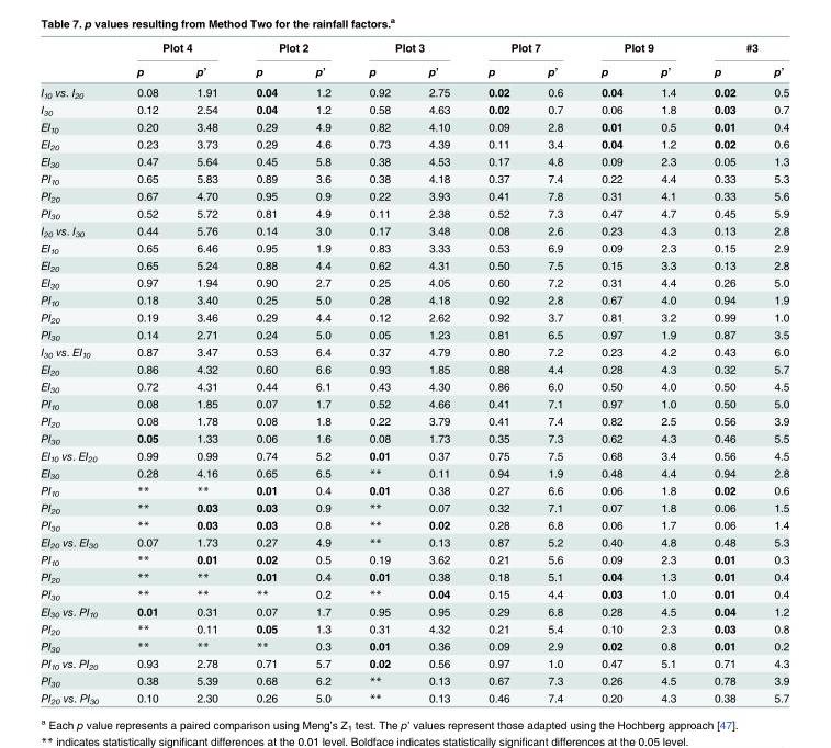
<table><thead><tr><td rowspan="2"></td><td colspan="2">Plot 4</td><td colspan="2">Plot 2</td><td colspan="2">Plot 3</td><td colspan="2">Plot 7</td><td colspan="2">Plot 9</td><td colspan="2">#3</td></tr><tr><td>p</td><td>p’</td><td>p</td><td>p’</td><td>p</td><td>p’</td><td>p</td><td>p’</td><td>p</td><td>p’</td><td>p</td><td>p’</td></tr></thead><tbody><tr><td>I<sub>10</sub> vs. I<sub>20</sub></td><td>0.08</td><td>1.91</td><td>0.04</td><td>1.2</td><td>0.92</td><td>2.75</td><td>0.02</td><td>0.6</td><td>0.04</td><td>1.4</td><td>0.02</td><td>0.5</td></tr><tr><td>I<sub>30</sub></td><td>0.12</td><td>2.54</td><td>0.04</td><td>1.2</td><td>0.58</td><td>4.63</td><td>0.02</td><td>0.7</td><td>0.06</td><td>1.8</td><td>0.03</td><td>0.7</td></tr><tr><td>EI<sub>10</sub></td><td>0.20</td><td>3.48</td><td>0.29</td><td>4.9</td><td>0.82</td><td>4.10</td><td>0.09</td><td>2.8</td><td>0.01</td><td>0.5</td><td>0.01</td><td>0.4</td></tr><tr><td>EI<sub>20</sub></td><td>0.23</td><td>3.73</td><td>0.29</td><td>4.6</td><td>0.73</td><td>4.39</td><td>0.11</td><td>3.4</td><td>0.04</td><td>1.2</td><td>0.02</td><td>0.6</td></tr><tr><td>EI<sub>30</sub></td><td>0.47</td><td>5.64</td><td>0.45</td><td>5.8</td><td>0.38</td><td>4.53</td><td>0.17</td><td>4.8</td><td>0.09</td><td>2.3</td><td>0.05</td><td>1.3</td></tr><tr><td>PI<sub>10</sub></td><td>0.65</td><td>5.83</td><td>0.89</td><td>3.6</td><td>0.38</td><td>4.18</td><td>0.37</td><td>7.4</td><td>0.22</td><td>4.4</td><td>0.33</td><td>5.3</td></tr><tr><td>PI<sub>20</sub></td><td>0.67</td><td>4.70</td><td>0.95</td><td>0.9</td><td>0.22</td><td>3.93</td><td>0.41</td><td>7.8</td><td>0.31</td><td>4.1</td><td>0.33</td><td>5.6</td></tr><tr><td>PI<sub>30</sub></td><td>0.52</td><td>5.72</td><td>0.81</td><td>4.9</td><td>0.11</td><td>2.38</td><td>0.52</td><td>7.3</td><td>0.47</td><td>4.7</td><td>0.45</td><td>5.9</td></tr><tr><td>I<sub>20</sub> vs. I<sub>30</sub></td><td>0.44</td><td>5.76</td><td>0.14</td><td>3.0</td><td>0.17</td><td>3.48</td><td>0.08</td><td>2.6</td><td>0.23</td><td>4.3</td><td>0.13</td><td>2.8</td></tr><tr><td>EI<sub>10</sub></td><td>0.65</td><td>6.46</td><td>0.95</td><td>1.9</td><td>0.83</td><td>3.33</td><td>0.53</td><td>6.9</td><td>0.09</td><td>2.3</td><td>0.15</td><td>2.9</td></tr><tr><td>EI<sub>20</sub></td><td>0.65</td><td>5.24</td><td>0.88</td><td>4.4</td><td>0.62</td><td>4.31</td><td>0.50</td><td>7.5</td><td>0.15</td><td>3.3</td><td>0.13</td><td>2.8</td></tr><tr><td>EI<sub>30</sub></td><td>0.97</td><td>1.94</td><td>0.90</td><td>2.7</td><td>0.25</td><td>4.05</td><td>0.60</td><td>7.2</td><td>0.31</td><td>4.4</td><td>0.26</td><td>5.0</td></tr><tr><td>PI<sub>10</sub></td><td>0.18</td><td>3.40</td><td>0.25</td><td>5.0</td><td>0.28</td><td>4.18</td><td>0.92</td><td>2.8</td><td>0.67</td><td>4.0</td><td>0.94</td><td>1.9</td></tr><tr><td>PI<sub>20</sub></td><td>0.19</td><td>3.46</td><td>0.29</td><td>4.4</td><td>0.12</td><td>2.62</td><td>0.92</td><td>3.7</td><td>0.81</td><td>3.2</td><td>0.99</td><td>1.0</td></tr><tr><td>PI<sub>30</sub></td><td>0.14</td><td>2.71</td><td>0.24</td><td>5.0</td><td>0.05</td><td>1.23</td><td>0.81</td><td>6.5</td><td>0.97</td><td>1.9</td><td>0.87</td><td>3.5</td></tr><tr><td>I<sub>30</sub> vs. EI<sub>10</sub></td><td>0.87</td><td>3.47</td><td>0.53</td><td>6.4</td><td>0.37</td><td>4.79</td><td>0.80</td><td>7.2</td><td>0.23</td><td>4.2</td><td>0.43</td><td>6.0</td></tr><tr><td>EI<sub>20</sub></td><td>0.86</td><td>4.32</td><td>0.60</td><td>6.6</td><td>0.93</td><td>1.85</td><td>0.88</td><td>4.4</td><td>0.28</td><td>4.3</td><td>0.32</td><td>5.7</td></tr><tr><td>EI<sub>30</sub></td><td>0.72</td><td>4.31</td><td>0.44</td><td>6.1</td><td>0.43</td><td>4.30</td><td>0.86</td><td>6.0</td><td>0.50</td><td>4.0</td><td>0.50</td><td>4.5</td></tr><tr><td>PI<sub>10</sub></td><td>0.08</td><td>1.85</td><td>0.07</td><td>1.7</td><td>0.52</td><td>4.66</td><td>0.41</td><td>7.1</td><td>0.97</td><td>1.0</td><td>0.50</td><td>5.0</td></tr><tr><td>PI<sub>20</sub></td><td>0.08</td><td>1.78</td><td>0.08</td><td>1.8</td><td>0.22</td><td>3.79</td><td>0.41</td><td>7.4</td><td>0.82</td><td>2.5</td><td>0.56</td><td>3.9</td></tr><tr><td>PI<sub>30</sub></td><td>0.05</td><td>1.33</td><td>0.06</td><td>1.6</td><td>0.08</td><td>1.73</td><td>0.35</td><td>7.3</td><td>0.62</td><td>4.3</td><td>0.46</td><td>5.5</td></tr><tr><td>EI<sub>10</sub> vs. EI<sub>20</sub></td><td>0.99</td><td>0.99</td><td>0.74</td><td>5.2</td><td>0.01</td><td>0.37</td><td>0.75</td><td>7.5</td><td>0.68</td><td>3.4</td><td>0.56</td><td>4.5</td></tr><tr><td>EI<sub>30</sub></td><td>0.28</td><td>4.16</td><td>0.65</td><td>6.5</td><td>**</td><td>0.11</td><td>0.94</td><td>1.9</td><td>0.48</td><td>4.4</td><td>0.94</td><td>2.8</td></tr><tr><td>PI<sub>10</sub></td><td>**</td><td>**</td><td>0.01</td><td>0.4</td><td>0.01</td><td>0.38</td><td>0.27</td><td>6.6</td><td>0.06</td><td>1.8</td><td>0.02</td><td>0.6</td></tr><tr><td>PI<sub>20</sub></td><td>**</td><td>0.03</td><td>0.03</td><td>0.9</td><td>**</td><td>0.07</td><td>0.32</td><td>7.1</td><td>0.07</td><td>1.8</td><td>0.06</td><td>1.5</td></tr><tr><td>PI<sub>30</sub></td><td>**</td><td>0.03</td><td>0.03</td><td>0.8</td><td>**</td><td>0.02</td><td>0.28</td><td>6.8</td><td>0.06</td><td>1.7</td><td>0.06</td><td>1.4</td></tr><tr><td>EI<sub>20</sub> vs. EI<sub>30</sub></td><td>0.07</td><td>1.73</td><td>0.27</td><td>4.9</td><td>**</td><td>0.13</td><td>0.87</td><td>5.2</td><td>0.40</td><td>4.8</td><td>0.48</td><td>5.3</td></tr><tr><td>PI<sub>10</sub></td><td>**</td><td>0.01</td><td>0.02</td><td>0.5</td><td>0.19</td><td>3.62</td><td>0.21</td><td>5.6</td><td>0.09</td><td>2.3</td><td>0.01</td><td>0.3</td></tr><tr><td>PI<sub>20</sub></td><td>**</td><td>**</td><td>0.01</td><td>0.4</td><td>0.01</td><td>0.38</td><td>0.18</td><td>5.1</td><td>0.04</td><td>1.3</td><td>0.01</td><td>0.4</td></tr><tr><td>PI<sub>30</sub></td><td>**</td><td>**</td><td>**</td><td>0.2</td><td>**</td><td>0.04</td><td>0.15</td><td>4.4</td><td>0.03</td><td>1.0</td><td>0.01</td><td>0.4</td></tr><tr><td>EI<sub>30</sub> vs. PI<sub>10</sub></td><td>0.01</td><td>0.31</td><td>0.07</td><td>1.7</td><td>0.95</td><td>0.95</td><td>0.29</td><td>6.8</td><td>0.28</td><td>4.5</td><td>0.04</td><td>1.2</td></tr><tr><td>PI<sub>20</sub></td><td>**</td><td>0.11</td><td>0.05</td><td>1.3</td><td>0.31</td><td>4.32</td><td>0.21</td><td>5.4</td><td>0.10</td><td>2.3</td><td>0.03</td><td>0.8</td></tr><tr><td>PI<sub>30</sub></td><td>**</td><td>**</td><td>**</td><td>0.3</td><td>0.01</td><td>0.36</td><td>0.09</td><td>2.9</td><td>0.02</td><td>0.8</td><td>0.01</td><td>0.2</td></tr><tr><td>PI<sub>10</sub> vs. PI<sub>20</sub></td><td>0.93</td><td>2.78</td><td>0.71</td><td>5.7</td><td>0.02</td><td>0.56</td><td>0.97</td><td>1.0</td><td>0.47</td><td>5.1</td><td>0.71</td><td>4.3</td></tr><tr><td>PI<sub>30</sub></td><td>0.38</td><td>5.39</td><td>0.68</td><td>6.2</td><td>**</td><td>0.13</td><td>0.67</td><td>7.3</td><td>0.26</td><td>4.5</td><td>0.78</td><td>3.9</td></tr><tr><td>PI<sub>20</sub> vs. PI<sub>30</sub></td><td>0.10</td><td>2.30</td><td>0.26</td><td>5.0</td><td>**</td><td>0.13</td><td>0.46</td><td>7.4</td><td>0.20</td><td>4.3</td><td>0.38</td><td>5.7</td></tr></tbody></table>